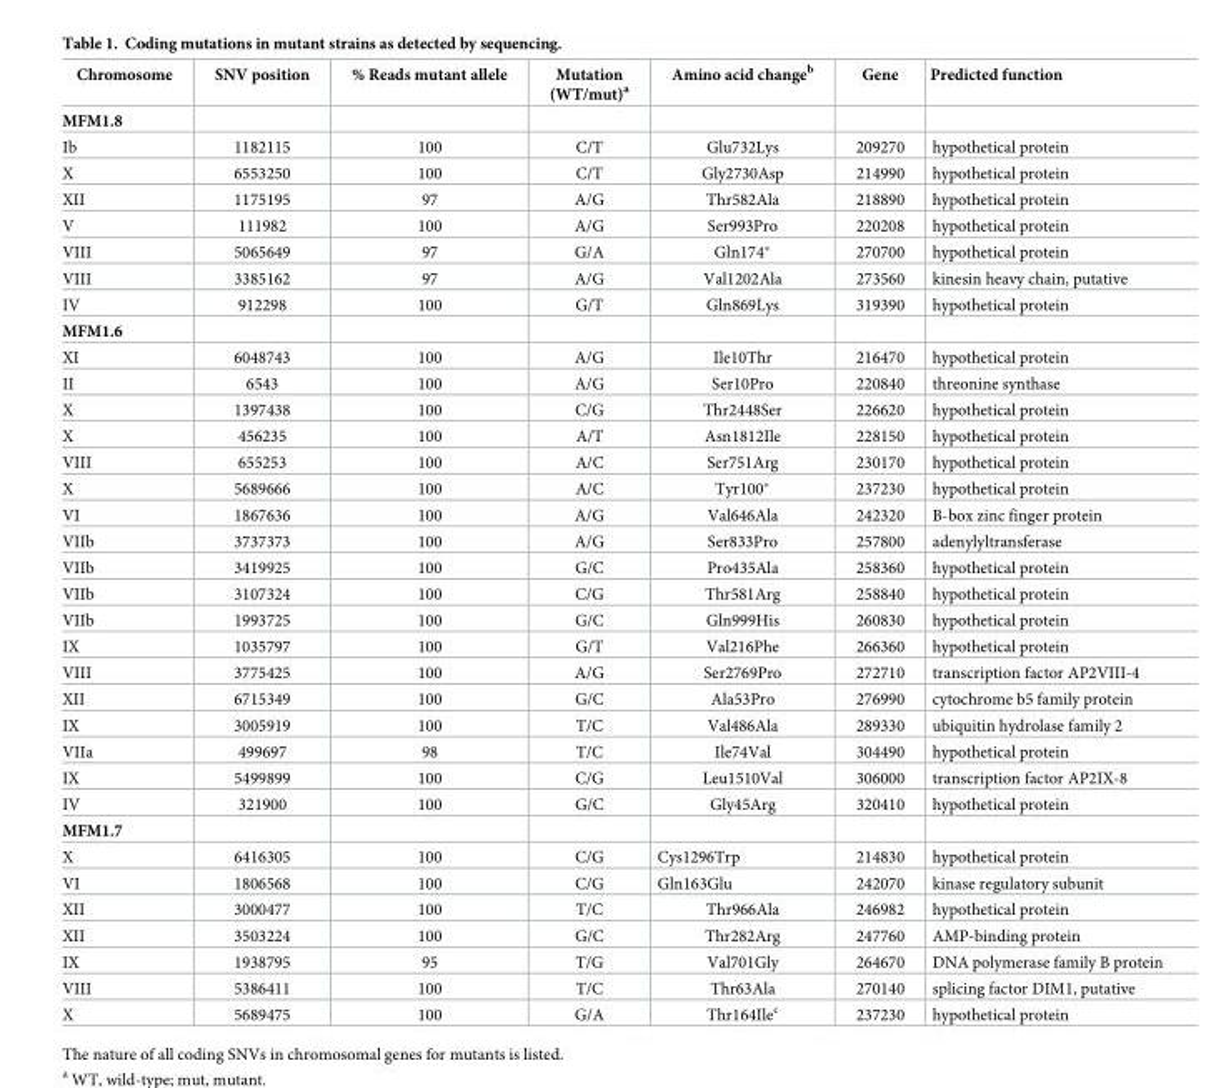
<table><thead><tr><td>Chromosome</td><td>SNV position</td><td>% Reads mutant allele</td><td>Mutation (WT/mut)<sup>a</sup></td><td>Amino acid change<sup>b</sup></td><td>Gene</td><td>Predicted function</td></tr></thead><tbody><tr><td colspan="7">MFM1.8</td></tr><tr><td>Ib</td><td>1182115</td><td>100</td><td>C/T</td><td>Glu732Lys</td><td>209270</td><td>hypothetical protein</td></tr><tr><td>X</td><td>6553250</td><td>100</td><td>C/T</td><td>Gly2730Asp</td><td>214990</td><td>hypothetical protein</td></tr><tr><td>XII</td><td>1175195</td><td>97</td><td>A/G</td><td>Thr582Ala</td><td>218890</td><td>hypothetical protein</td></tr><tr><td>V</td><td>111982</td><td>100</td><td>A/G</td><td>Ser993Pro</td><td>220208</td><td>hypothetical protein</td></tr><tr><td>VIII</td><td>5065649</td><td>97</td><td>G/A</td><td>Gln174*</td><td>270700</td><td>hypothetical protein</td></tr><tr><td>VIII</td><td>3385162</td><td>97</td><td>A/G</td><td>Val1202Ala</td><td>273560</td><td>kinesin heavy chain, putative</td></tr><tr><td>IV</td><td>912298</td><td>100</td><td>G/T</td><td>Gln869Lys</td><td>319390</td><td>hypothetical protein</td></tr><tr><td colspan="7">MFM1.6</td></tr><tr><td>XI</td><td>6048743</td><td>100</td><td>A/G</td><td>Ile10Thr</td><td>216470</td><td>hypothetical protein</td></tr><tr><td>II</td><td>6543</td><td>100</td><td>A/G</td><td>Ser10Pro</td><td>220840</td><td>threonine synthase</td></tr><tr><td>X</td><td>1397438</td><td>100</td><td>C/G</td><td>Thr2448Ser</td><td>226620</td><td>hypothetical protein</td></tr><tr><td>X</td><td>456235</td><td>100</td><td>A/T</td><td>Asn1812Ile</td><td>228150</td><td>hypothetical protein</td></tr><tr><td>VIII</td><td>655253</td><td>100</td><td>A/C</td><td>Ser751Arg</td><td>230170</td><td>hypothetical protein</td></tr><tr><td>X</td><td>5689666</td><td>100</td><td>A/C</td><td>Tyr100*</td><td>237230</td><td>hypothetical protein</td></tr><tr><td>VI</td><td>1867636</td><td>100</td><td>A/G</td><td>Val646Ala</td><td>242320</td><td>B-box zinc finger protein</td></tr><tr><td>VIIb</td><td>3737373</td><td>100</td><td>A/G</td><td>Ser833Pro</td><td>257800</td><td>adenylyltransferase</td></tr><tr><td>VIIb</td><td>3419925</td><td>100</td><td>G/C</td><td>Pro435Ala</td><td>258360</td><td>hypothetical protein</td></tr><tr><td>VIIb</td><td>3107324</td><td>100</td><td>C/G</td><td>Thr581Arg</td><td>258840</td><td>hypothetical protein</td></tr><tr><td>VIIb</td><td>1993725</td><td>100</td><td>G/C</td><td>Gln999His</td><td>260830</td><td>hypothetical protein</td></tr><tr><td>IX</td><td>1035797</td><td>100</td><td>G/T</td><td>Val216Phe</td><td>266360</td><td>hypothetical protein</td></tr><tr><td>VIII</td><td>3775425</td><td>100</td><td>A/G</td><td>Ser2769Pro</td><td>272710</td><td>transcription factor AP2VIII-4</td></tr><tr><td>XII</td><td>6715349</td><td>100</td><td>G/C</td><td>Ala53Pro</td><td>276990</td><td>cytochrome b5 family protein</td></tr><tr><td>IX</td><td>3005919</td><td>100</td><td>T/C</td><td>Val486Ala</td><td>289330</td><td>ubiquitin hydrolase family 2</td></tr><tr><td>VIIa</td><td>499697</td><td>98</td><td>T/C</td><td>Ile74Val</td><td>304490</td><td>hypothetical protein</td></tr><tr><td>IX</td><td>5499899</td><td>100</td><td>C/G</td><td>Leu1510Val</td><td>306000</td><td>transcription factor AP2IX-8</td></tr><tr><td>IV</td><td>321900</td><td>100</td><td>G/C</td><td>Gly45Arg</td><td>320410</td><td>hypothetical protein</td></tr><tr><td colspan="7">MFM1.7</td></tr><tr><td>X</td><td>6416305</td><td>100</td><td>C/G</td><td>Cys1296Trp</td><td>214830</td><td>hypothetical protein</td></tr><tr><td>VI</td><td>1806568</td><td>100</td><td>C/G</td><td>Gln163Glu</td><td>242070</td><td>kinase regulatory subunit</td></tr><tr><td>XII</td><td>3000477</td><td>100</td><td>T/C</td><td>Thr966Ala</td><td>246982</td><td>hypothetical protein</td></tr><tr><td>XII</td><td>3503224</td><td>100</td><td>G/C</td><td>Thr282Arg</td><td>247760</td><td>AMP-binding protein</td></tr><tr><td>IX</td><td>1938795</td><td>95</td><td>T/G</td><td>Val701Gly</td><td>264670</td><td>DNA polymerase family B protein</td></tr><tr><td>VIII</td><td>5386411</td><td>100</td><td>T/C</td><td>Thr63Ala</td><td>270140</td><td>splicing factor DIM1, putative</td></tr><tr><td>X</td><td>5689475</td><td>100</td><td>G/A</td><td>Thr164Ile<sup>c</sup></td><td>237230</td><td>hypothetical protein</td></tr></tbody></table>